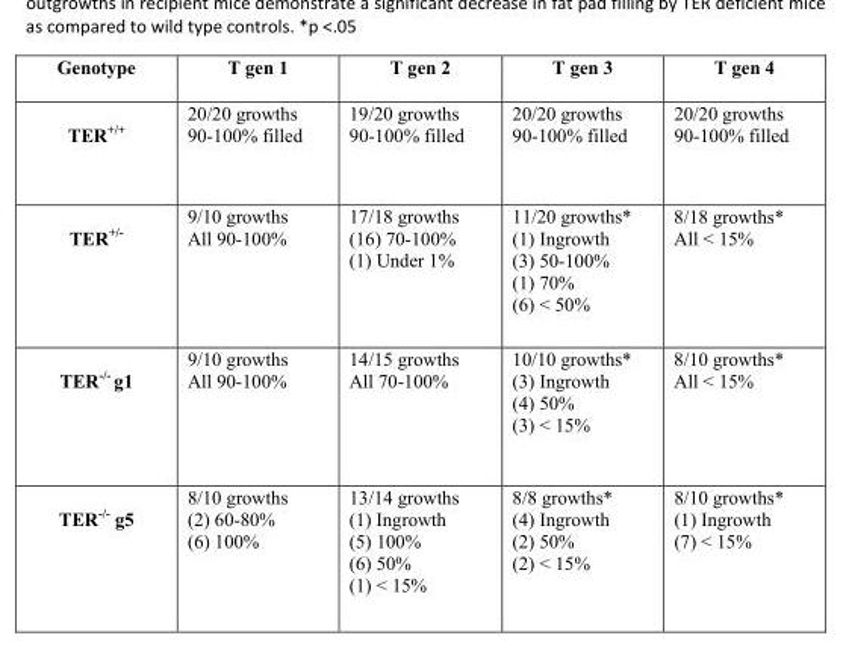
<table><thead><tr><td>Genotype</td><td>T gen 1</td><td>T gen 2</td><td>T gen 3</td><td>T gen 4</td></tr></thead><tbody><tr><td>TER<sup>+/+</sup></td><td>20/20 growths 90-100% filled</td><td>19/20 growths 90-100% filled</td><td>20/20 growths 90-100% filled</td><td>20/20 growths 90-100% filled</td></tr><tr><td>TER<sup>+/-</sup></td><td>9/10 growths All 90-100%</td><td>17/18 growths (16) 70-100% (1) Under 1%</td><td>11/20 growths* (1) Ingrowth (3) 50-100% (1) 70% (6) &lt; 50%</td><td>8/18 growths* All &lt; 15%</td></tr><tr><td>TER<sup>-/-</sup> g1</td><td>9/10 growths All 90-100%</td><td>14/15 growths All 70-100%</td><td>10/10 growths* (3) Ingrowth (4) 50% (3) &lt; 15%</td><td>8/10 growths* All &lt; 15%</td></tr><tr><td>TER<sup>-/-</sup> g5</td><td>8/10 growths (2) 60-80% (6) 100%</td><td>13/14 growths (1) Ingrowth (5) 100% (6) 50% (1) &lt; 15%</td><td>8/8 growths* (4) Ingrowth (2) 50% (2) &lt; 15%</td><td>8/10 growths* (1) Ingrowth (7) &lt; 15%</td></tr></tbody></table>